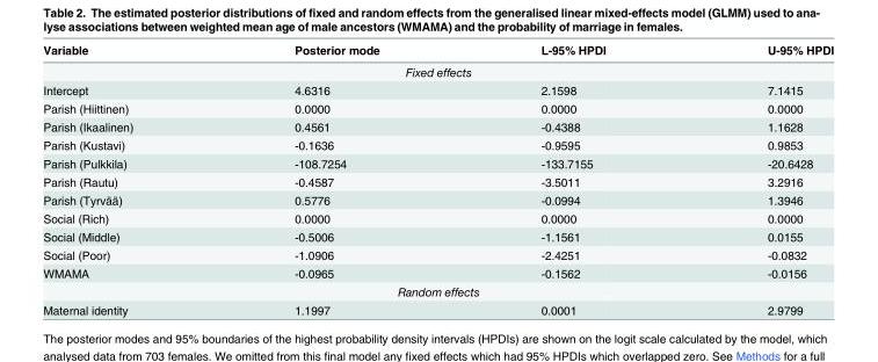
<table><thead><tr><td>Variable</td><td>Posterior mode</td><td>L-95% HPDI</td><td>U-95% HPDI</td></tr></thead><tbody><tr><td colspan="4">Fixed effects</td></tr><tr><td>Intercept</td><td>4.6316</td><td>2.1598</td><td>7.1415</td></tr><tr><td>Parish (Hiittinen)</td><td>0.0000</td><td>0.0000</td><td>0.0000</td></tr><tr><td>Parish (Ikaalinen)</td><td>0.4561</td><td>-0.4388</td><td>1.1628</td></tr><tr><td>Parish (Kustavi)</td><td>-0.1636</td><td>-0.9595</td><td>0.9853</td></tr><tr><td>Parish (Pulkkila)</td><td>-108.7254</td><td>-133.7155</td><td>-20.6428</td></tr><tr><td>Parish (Rautu)</td><td>-0.4587</td><td>-3.5011</td><td>3.2916</td></tr><tr><td>Parish (Tyrvää)</td><td>0.5776</td><td>-0.0994</td><td>1.3946</td></tr><tr><td>Social (Rich)</td><td>0.0000</td><td>0.0000</td><td>0.0000</td></tr><tr><td>Social (Middle)</td><td>-0.5006</td><td>-1.1561</td><td>0.0155</td></tr><tr><td>Social (Poor)</td><td>-1.0906</td><td>-2.4251</td><td>-0.0832</td></tr><tr><td>WMAMA</td><td>-0.0965</td><td>-0.1562</td><td>-0.0156</td></tr><tr><td colspan="4">Random effects</td></tr><tr><td>Maternal identity</td><td>1.1997</td><td>0.0001</td><td>2.9799</td></tr></tbody></table>